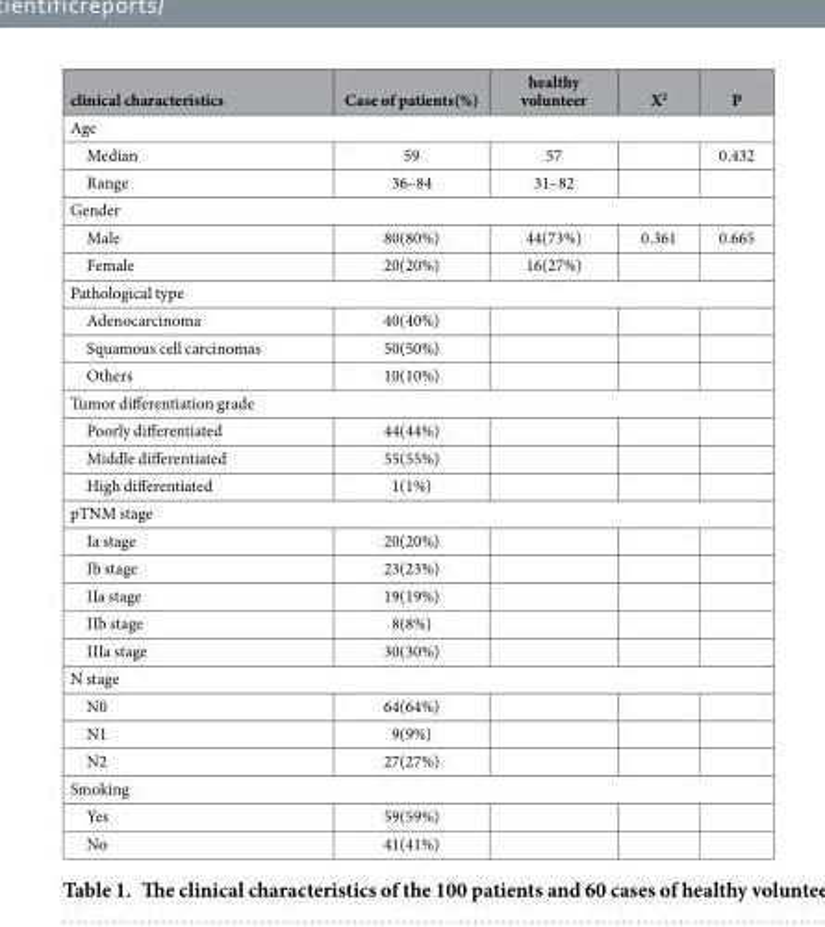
<table><thead><tr><td>clinical characteristics</td><td>Case of patients(%)</td><td>healthy volunteer</td><td>X<sup>2</sup></td><td>P</td></tr></thead><tbody><tr><td colspan="5">Age</td></tr><tr><td>Median</td><td>59</td><td>57</td><td></td><td>0.432</td></tr><tr><td>Range</td><td>36–84</td><td>31–82</td><td></td><td></td></tr><tr><td colspan="5">Gender</td></tr><tr><td>Male</td><td>80(80%)</td><td>44(73%)</td><td>0.361</td><td>0.665</td></tr><tr><td>Female</td><td>20(20%)</td><td>16(27%)</td><td></td><td></td></tr><tr><td colspan="5">Pathological type</td></tr><tr><td>Adenocarcinoma</td><td>40(40%)</td><td></td><td></td><td></td></tr><tr><td>Squamous cell carcinomas</td><td>50(50%)</td><td></td><td></td><td></td></tr><tr><td>Others</td><td>10(10%)</td><td></td><td></td><td></td></tr><tr><td colspan="5">Tumor differentiation grade</td></tr><tr><td>Poorly differentiated</td><td>44(44%)</td><td></td><td></td><td></td></tr><tr><td>Middle differentiated</td><td>55(55%)</td><td></td><td></td><td></td></tr><tr><td>High differentiated</td><td>1(1%)</td><td></td><td></td><td></td></tr><tr><td colspan="5">pTNM stage</td></tr><tr><td>Ia stage</td><td>20(20%)</td><td></td><td></td><td></td></tr><tr><td>Ib stage</td><td>23(23%)</td><td></td><td></td><td></td></tr><tr><td>IIa stage</td><td>19(19%)</td><td></td><td></td><td></td></tr><tr><td>IIb stage</td><td>8(8%)</td><td></td><td></td><td></td></tr><tr><td>IIIa stage</td><td>30(30%)</td><td></td><td></td><td></td></tr><tr><td colspan="5">N stage</td></tr><tr><td>N0</td><td>64(64%)</td><td></td><td></td><td></td></tr><tr><td>N1</td><td>9(9%)</td><td></td><td></td><td></td></tr><tr><td>N2</td><td>27(27%)</td><td></td><td></td><td></td></tr><tr><td colspan="5">Smoking</td></tr><tr><td>Yes</td><td>59(59%)</td><td></td><td></td><td></td></tr><tr><td>No</td><td>41(41%)</td><td></td><td></td><td></td></tr></tbody></table>